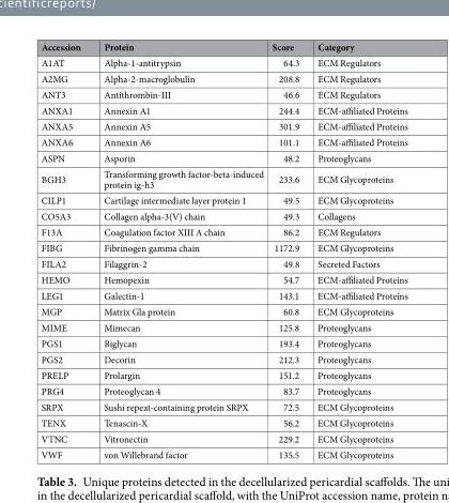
<table><thead><tr><td>Accession</td><td>Protein</td><td>Score</td><td>Category</td></tr></thead><tbody><tr><td>A1AT</td><td>Alpha-1-antitrypsin</td><td>64.3</td><td>ECM Regulators</td></tr><tr><td>A2MG</td><td>Alpha-2-macroglobulin</td><td>208.8</td><td>ECM Regulators</td></tr><tr><td>ANT3</td><td>Antithrombin-III</td><td>46.6</td><td>ECM Regulators</td></tr><tr><td>ANXA1</td><td>Annexin A1</td><td>244.4</td><td>ECM-affiliated Proteins</td></tr><tr><td>ANXA5</td><td>Annexin A5</td><td>301.9</td><td>ECM-affiliated Proteins</td></tr><tr><td>ANXA6</td><td>Annexin A6</td><td>101.1</td><td>ECM-affiliated Proteins</td></tr><tr><td>ASPN</td><td>Asporin</td><td>48.2</td><td>Proteoglycans</td></tr><tr><td>BGH3</td><td>Transforming growth factor-beta-induced protein ig-h3</td><td>233.6</td><td>ECM Glycoproteins</td></tr><tr><td>CILP1</td><td>Cartilage intermediate layer protein 1</td><td>49.5</td><td>ECM Glycoproteins</td></tr><tr><td>CO5A3</td><td>Collagen alpha-3(V) chain</td><td>49.3</td><td>Collagens</td></tr><tr><td>F13A</td><td>Coagulation factor XIII A chain</td><td>86.2</td><td>ECM Regulators</td></tr><tr><td>FIBG</td><td>Fibrinogen gamma chain</td><td>1172.9</td><td>ECM Glycoproteins</td></tr><tr><td>FILA2</td><td>Filaggrin-2</td><td>49.8</td><td>Secreted Factors</td></tr><tr><td>HEMO</td><td>Hemopexin</td><td>54.7</td><td>ECM-affiliated Proteins</td></tr><tr><td>LEG1</td><td>Galectin-1</td><td>143.1</td><td>ECM-affiliated Proteins</td></tr><tr><td>MGP</td><td>Matrix Gla protein</td><td>60.8</td><td>ECM Glycoproteins</td></tr><tr><td>MIME</td><td>Mimecan</td><td>125.8</td><td>Proteoglycans</td></tr><tr><td>PGS1</td><td>Biglycan</td><td>193.4</td><td>Proteoglycans</td></tr><tr><td>PGS2</td><td>Decorin</td><td>212.3</td><td>Proteoglycans</td></tr><tr><td>PRELP</td><td>Prolargin</td><td>151.2</td><td>Proteoglycans</td></tr><tr><td>PRG4</td><td>Proteoglycan 4</td><td>83.7</td><td>Proteoglycans</td></tr><tr><td>SRPX</td><td>Sushi repeat-containing protein SRPX</td><td>72.5</td><td>ECM Glycoproteins</td></tr><tr><td>TENX</td><td>Tenascin-X</td><td>56.2</td><td>ECM Glycoproteins</td></tr><tr><td>VTNC</td><td>Vitronectin</td><td>229.2</td><td>ECM Glycoproteins</td></tr><tr><td>VWF</td><td>von Willebrand factor</td><td>135.5</td><td>ECM Glycoproteins</td></tr></tbody></table>